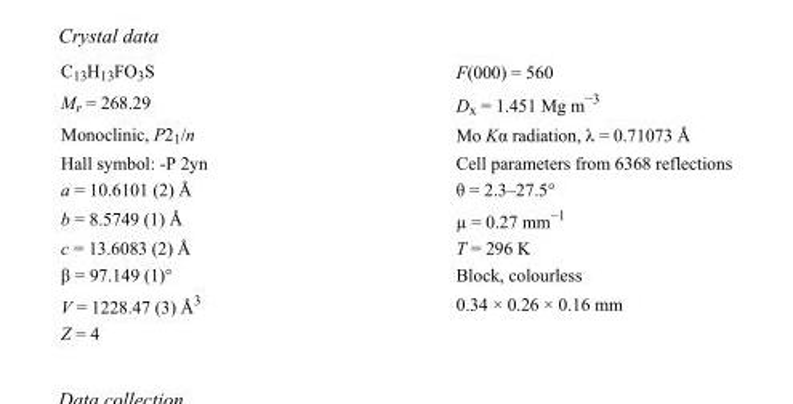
<table><tbody><tr><td>C<sub>13</sub>H<sub>13</sub>FO<sub>3</sub>S</td><td>F(000) = 560</td></tr><tr><td>M<sub>r</sub> = 268.29</td><td>D<sub>x</sub> = 1.451 Mg m<sup>−3</sup></td></tr><tr><td>Monoclinic, P2<sub>1</sub>/n</td><td>Mo Kα radiation, λ = 0.71073 Å</td></tr><tr><td>Hall symbol: -P 2yn</td><td>Cell parameters from 6368 reflections</td></tr><tr><td>a = 10.6101 (2) Å</td><td>θ = 2.3–27.5°</td></tr><tr><td>b = 8.5749 (1) Å</td><td>µ = 0.27 mm<sup>−1</sup></td></tr><tr><td>c = 13.6083 (2) Å</td><td>T = 296 K</td></tr><tr><td>β = 97.149 (1)°</td><td>Block, colourless</td></tr><tr><td>V = 1228.47 (3) Å<sup>3</sup></td><td>0.34 × 0.26 × 0.16 mm</td></tr><tr><td>Z = 4</td><td></td></tr></tbody></table>